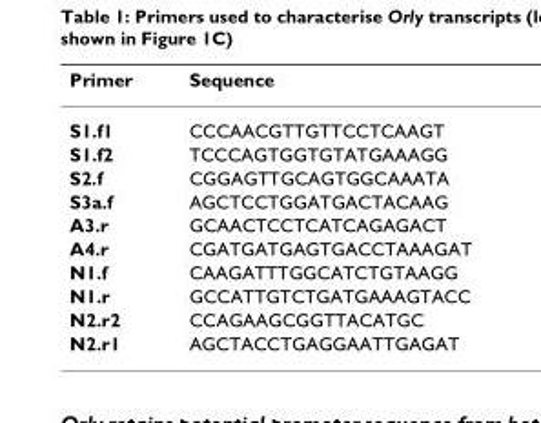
<table><thead><tr><td>Primer</td><td>Sequence</td></tr></thead><tbody><tr><td>S1.f1</td><td>CCCAACGTTGTTCCTCAAGT</td></tr><tr><td>S1.f2</td><td>TCCCAGTGGTGTATGAAAGG</td></tr><tr><td>S2.f</td><td>CGGAGTTGCAGTGGCAAATA</td></tr><tr><td>S3a.f</td><td>AGCTCCTGGATGACTACAAG</td></tr><tr><td>A3.r</td><td>GCAACTCCTCATCAGAGACT</td></tr><tr><td>A4.r</td><td>CGATGATGAGTGACCTAAAGAT</td></tr><tr><td>N1.f</td><td>CAAGATTTGGCATCTGTAAGG</td></tr><tr><td>N1.r</td><td>GCCATTGTCTGATGAAAGTACC</td></tr><tr><td>N2.r2</td><td>CCAGAAGCGGTTACATGC</td></tr><tr><td>N2.r1</td><td>AGCTACCTGAGGAATTGAGAT</td></tr></tbody></table>